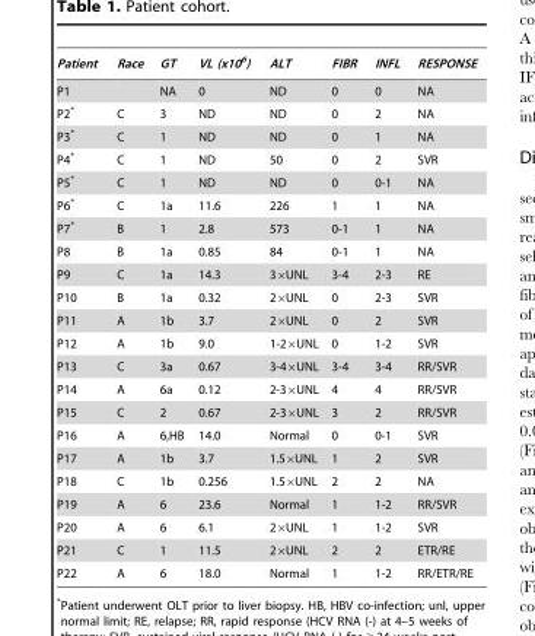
<table><thead><tr><td>Patient</td><td>Race</td><td>GT</td><td>VL (x10<sup>6</sup>)</td><td>ALT</td><td>FIBR</td><td>INFL</td><td>RESPONSE</td></tr></thead><tbody><tr><td>P1</td><td></td><td>NA</td><td>0</td><td>ND</td><td>0</td><td>0</td><td>NA</td></tr><tr><td>P2*</td><td>C</td><td>3</td><td>ND</td><td>ND</td><td>0</td><td>2</td><td>NA</td></tr><tr><td>P3*</td><td>C</td><td>1</td><td>ND</td><td>ND</td><td>0</td><td>1</td><td>NA</td></tr><tr><td>P4*</td><td>C</td><td>1</td><td>ND</td><td>50</td><td>0</td><td>2</td><td>SVR</td></tr><tr><td>P5*</td><td>C</td><td>1</td><td>ND</td><td>ND</td><td>0</td><td>0-1</td><td>NA</td></tr><tr><td>P6*</td><td>C</td><td>1a</td><td>11.6</td><td>226</td><td>1</td><td>1</td><td>NA</td></tr><tr><td>P7*</td><td>B</td><td>1</td><td>2.8</td><td>573</td><td>0-1</td><td>1</td><td>NA</td></tr><tr><td>P8</td><td>B</td><td>1a</td><td>0.85</td><td>84</td><td>0-1</td><td>1</td><td>NA</td></tr><tr><td>P9</td><td>C</td><td>1a</td><td>14.3</td><td>3×UNL</td><td>3-4</td><td>2-3</td><td>RE</td></tr><tr><td>P10</td><td>B</td><td>1a</td><td>0.32</td><td>2×UNL</td><td>0</td><td>2-3</td><td>SVR</td></tr><tr><td>P11</td><td>A</td><td>1b</td><td>3.7</td><td>2×UNL</td><td>0</td><td>2</td><td>SVR</td></tr><tr><td>P12</td><td>A</td><td>1b</td><td>9.0</td><td>1-2×UNL</td><td>0</td><td>1-2</td><td>SVR</td></tr><tr><td>P13</td><td>C</td><td>3a</td><td>0.67</td><td>3-4×UNL</td><td>3-4</td><td>3-4</td><td>RR/SVR</td></tr><tr><td>P14</td><td>A</td><td>6a</td><td>0.12</td><td>2-3×UNL</td><td>4</td><td>4</td><td>RR/SVR</td></tr><tr><td>P15</td><td>C</td><td>2</td><td>0.67</td><td>2-3×UNL</td><td>3</td><td>2</td><td>RR/SVR</td></tr><tr><td>P16</td><td>A</td><td>6,HB</td><td>14.0</td><td>Normal</td><td>0</td><td>0-1</td><td>SVR</td></tr><tr><td>P17</td><td>A</td><td>1b</td><td>3.7</td><td>1.5×UNL</td><td>1</td><td>2</td><td>SVR</td></tr><tr><td>P18</td><td>C</td><td>1b</td><td>0.256</td><td>1.5×UNL</td><td>2</td><td>2</td><td>NA</td></tr><tr><td>P19</td><td>A</td><td>6</td><td>23.6</td><td>Normal</td><td>1</td><td>1-2</td><td>RR/SVR</td></tr><tr><td>P20</td><td>A</td><td>6</td><td>6.1</td><td>2×UNL</td><td>1</td><td>1-2</td><td>SVR</td></tr><tr><td>P21</td><td>C</td><td>1</td><td>11.5</td><td>2×UNL</td><td>2</td><td>2</td><td>ETR/RE</td></tr><tr><td>P22</td><td>A</td><td>6</td><td>18.0</td><td>Normal</td><td>1</td><td>1-2</td><td>RR/ETR/RE</td></tr></tbody></table>